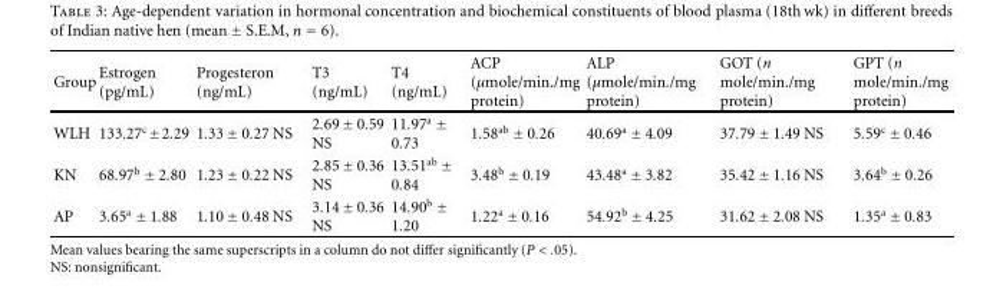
<table><thead><tr><td>Group</td><td>Estrogen (pg/mL)</td><td>Progesteron (ng/mL)</td><td>T3 (ng/mL)</td><td>T4 (ng/mL)</td><td>ACP (µmole/min./mg protein)</td><td>ALP (µmole/min./mg protein)</td><td>GOT (n mole/min./mg protein)</td><td>GPT (n mole/min./mg protein)</td></tr></thead><tbody><tr><td>WLH</td><td>133.27<sup>c</sup> ±2.29</td><td>1.33 ± 0.27 NS</td><td>2.69 ± 0.59 NS</td><td>11.97<sup>a</sup> ± 0.73</td><td>1.58<sup>ab</sup> ± 0.26</td><td>40.69<sup>a</sup> ± 4.09</td><td>37.79 ± 1.49 NS</td><td>5.59<sup>c</sup> ± 0.46</td></tr><tr><td>KN</td><td>68.97<sup>b</sup> ± 2.80</td><td>1.23 ± 0.22 NS</td><td>2.85 ± 0.36 NS</td><td>13.51<sup>ab</sup> ± 0.84</td><td>3.48<sup>b</sup> ± 0.19</td><td>43.48<sup>a</sup> ± 3.82</td><td>35.42 ± 1.16 NS</td><td>3.64<sup>b</sup> ± 0.26</td></tr><tr><td>AP</td><td>3.65<sup>a</sup> ± 1.88</td><td>1.10 ± 0.48 NS</td><td>3.14 ± 0.36 NS</td><td>14.90<sup>b</sup> ± 1.20</td><td>1.22<sup>a</sup> ± 0.16</td><td>54.92<sup>b</sup> ± 4.25</td><td>31.62 ± 2.08 NS</td><td>1.35<sup>a</sup> ± 0.83</td></tr></tbody></table>